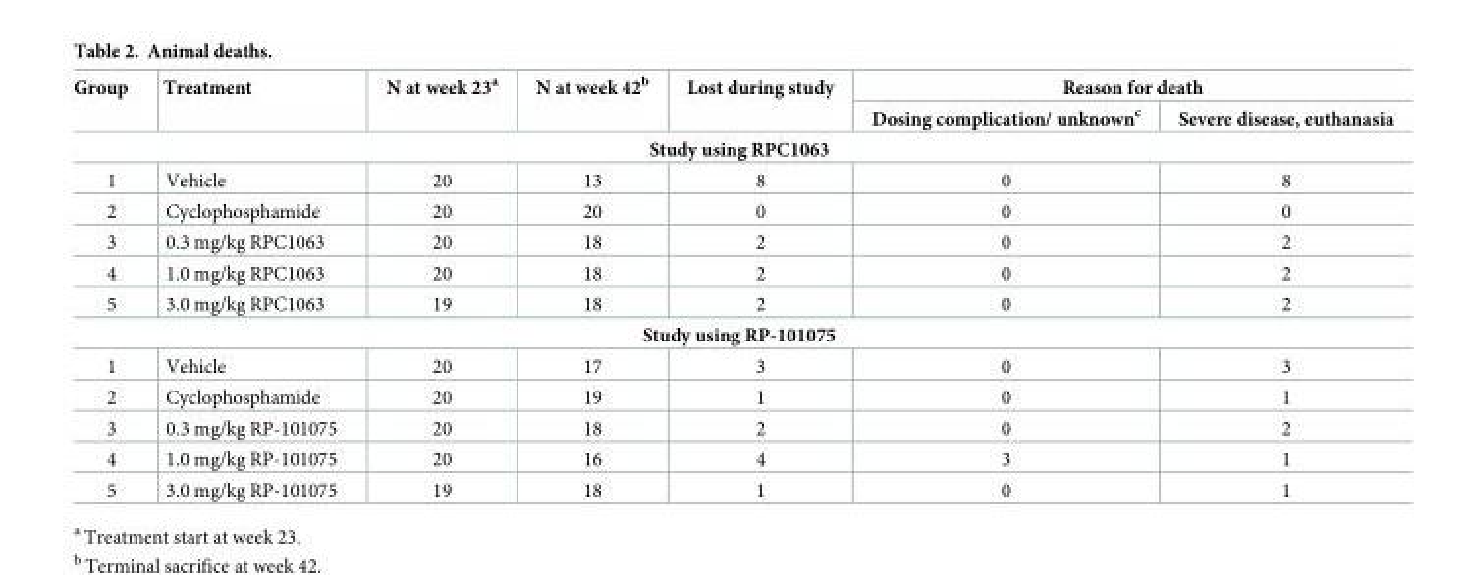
<table><thead><tr><td rowspan="2">Group</td><td rowspan="2">Treatment</td><td rowspan="2">N at week 23<sup>a</sup></td><td rowspan="2">N at week 42<sup>b</sup></td><td rowspan="2">Lost during study</td><td colspan="2">Reason for death</td></tr><tr><td>Dosing complication/ unknown<sup>c</sup></td><td>Severe disease, euthanasia</td></tr></thead><tbody><tr><td colspan="7">Study using RPC1063</td></tr><tr><td>1</td><td>Vehicle</td><td>20</td><td>13</td><td>8</td><td>0</td><td>8</td></tr><tr><td>2</td><td>Cyclophosphamide</td><td>20</td><td>20</td><td>0</td><td>0</td><td>0</td></tr><tr><td>3</td><td>0.3 mg/kg RPC1063</td><td>20</td><td>18</td><td>2</td><td>0</td><td>2</td></tr><tr><td>4</td><td>1.0 mg/kg RPC1063</td><td>20</td><td>18</td><td>2</td><td>0</td><td>2</td></tr><tr><td>5</td><td>3.0 mg/kg RPC1063</td><td>19</td><td>18</td><td>2</td><td>0</td><td>2</td></tr><tr><td colspan="7">Study using RP-101075</td></tr><tr><td>1</td><td>Vehicle</td><td>20</td><td>17</td><td>3</td><td>0</td><td>3</td></tr><tr><td>2</td><td>Cyclophosphamide</td><td>20</td><td>19</td><td>1</td><td>0</td><td>1</td></tr><tr><td>3</td><td>0.3 mg/kg RP-101075</td><td>20</td><td>18</td><td>2</td><td>0</td><td>2</td></tr><tr><td>4</td><td>1.0 mg/kg RP-101075</td><td>20</td><td>16</td><td>4</td><td>3</td><td>1</td></tr><tr><td>5</td><td>3.0 mg/kg RP-101075</td><td>19</td><td>18</td><td>1</td><td>0</td><td>1</td></tr></tbody></table>